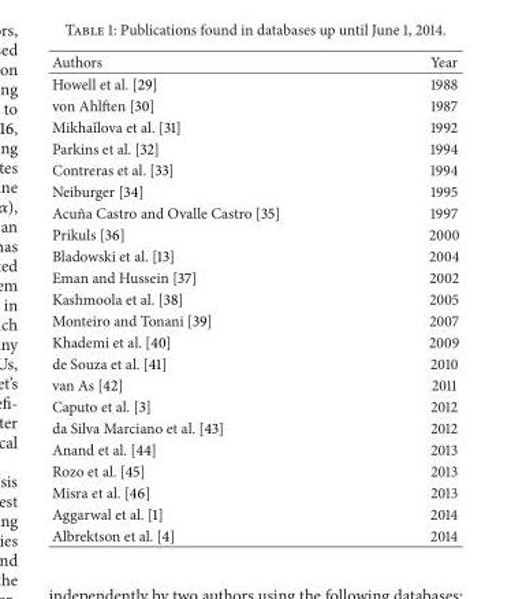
<table><thead><tr><td>Authors</td><td>Year</td></tr></thead><tbody><tr><td>Howell et al. [29]</td><td>1988</td></tr><tr><td>von Ahlften [30]</td><td>1987</td></tr><tr><td>Mikhaˇılova et al. [31]</td><td>1992</td></tr><tr><td>Parkins et al. [32]</td><td>1994</td></tr><tr><td>Contreras et al. [33]</td><td>1994</td></tr><tr><td>Neiburger [34]</td><td>1995</td></tr><tr><td>Acu˜na Castro and Ovalle Castro [35]</td><td>1997</td></tr><tr><td>Prikuls [36]</td><td>2000</td></tr><tr><td>Bladowski et al. [13]</td><td>2004</td></tr><tr><td>Eman and Hussein [37]</td><td>2002</td></tr><tr><td>Kashmoola et al. [38]</td><td>2005</td></tr><tr><td>Monteiro and Tonani [39]</td><td>2007</td></tr><tr><td>Khademi et al. [40]</td><td>2009</td></tr><tr><td>de Souza et al. [41]</td><td>2010</td></tr><tr><td>van As [42]</td><td>2011</td></tr><tr><td>Caputo et al. [3]</td><td>2012</td></tr><tr><td>da Silva Marciano et al. [43]</td><td>2012</td></tr><tr><td>Anand et al. [44]</td><td>2013</td></tr><tr><td>Rozo et al. [45]</td><td>2013</td></tr><tr><td>Misra et al. [46]</td><td>2013</td></tr><tr><td>Aggarwal et al. [1]</td><td>2014</td></tr><tr><td>Albrektson et al. [4]</td><td>2014</td></tr></tbody></table>